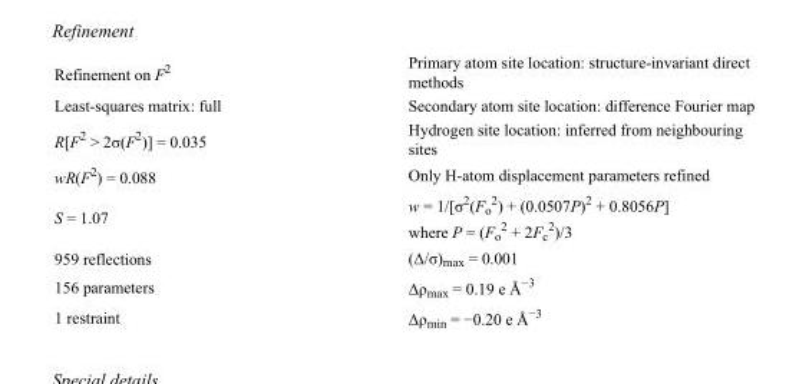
<table><tbody><tr><td>Refinement on F<sup>2</sup></td><td>Primary atom site location: structure-invariant direct methods</td></tr><tr><td>Least-squares matrix: full</td><td>Secondary atom site location: difference Fourier map</td></tr><tr><td>R[F<sup>2</sup> &gt; 2σ(F<sup>2</sup>)] = 0.035</td><td>Hydrogen site location: inferred from neighbouring sites</td></tr><tr><td>wR(F<sup>2</sup>) = 0.088</td><td>Only H-atom displacement parameters refined</td></tr><tr><td>S = 1.07</td><td>w = 1/[σ<sup>2</sup>(F<sub>o</sub> <sup>2</sup>) + (0.0507P)<sup>2</sup> + 0.8056P] where P = (F<sub>o</sub> <sup>2</sup> + 2F<sub>c</sub> <sup>2</sup>)/3</td></tr><tr><td>959 reflections</td><td>(Δ/σ)<sub>max</sub> = 0.001</td></tr><tr><td>156 parameters</td><td>Δρ<sub>max</sub> = 0.19 e Å<sup>−3</sup></td></tr><tr><td>1 restraint</td><td>Δρ<sub>min</sub> = −0.20 e Å<sup>−3</sup></td></tr></tbody></table>